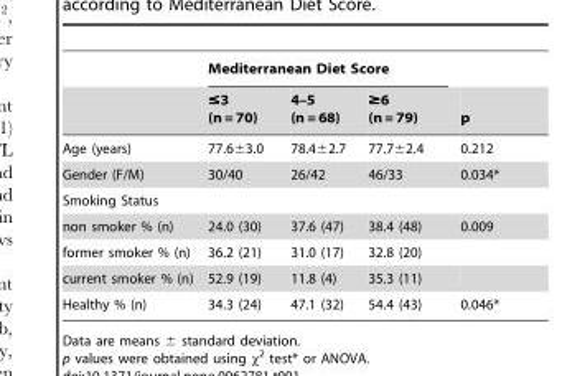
<table><thead><tr><td rowspan="2"></td><td colspan="3">Mediterranean Diet Score</td><td rowspan="2">p</td></tr><tr><td>≤3 (n = 70)</td><td>4–5 (n = 68)</td><td>≥6 (n = 79)</td></tr></thead><tbody><tr><td>Age (years)</td><td>77.6±3.0</td><td>78.4±2.7</td><td>77.7±2.4</td><td>0.212</td></tr><tr><td>Gender (F/M)</td><td>30/40</td><td>26/42</td><td>46/33</td><td>0.034*</td></tr><tr><td colspan="5">Smoking Status</td></tr><tr><td>non smoker % (n)</td><td>24.0 (30)</td><td>37.6 (47)</td><td>38.4 (48)</td><td>0.009</td></tr><tr><td>former smoker % (n)</td><td>36.2 (21)</td><td>31.0 (17)</td><td>32.8 (20)</td><td></td></tr><tr><td>current smoker % (n)</td><td>52.9 (19)</td><td>11.8 (4)</td><td>35.3 (11)</td><td></td></tr><tr><td>Healthy % (n)</td><td>34.3 (24)</td><td>47.1 (32)</td><td>54.4 (43)</td><td>0.046*</td></tr></tbody></table>